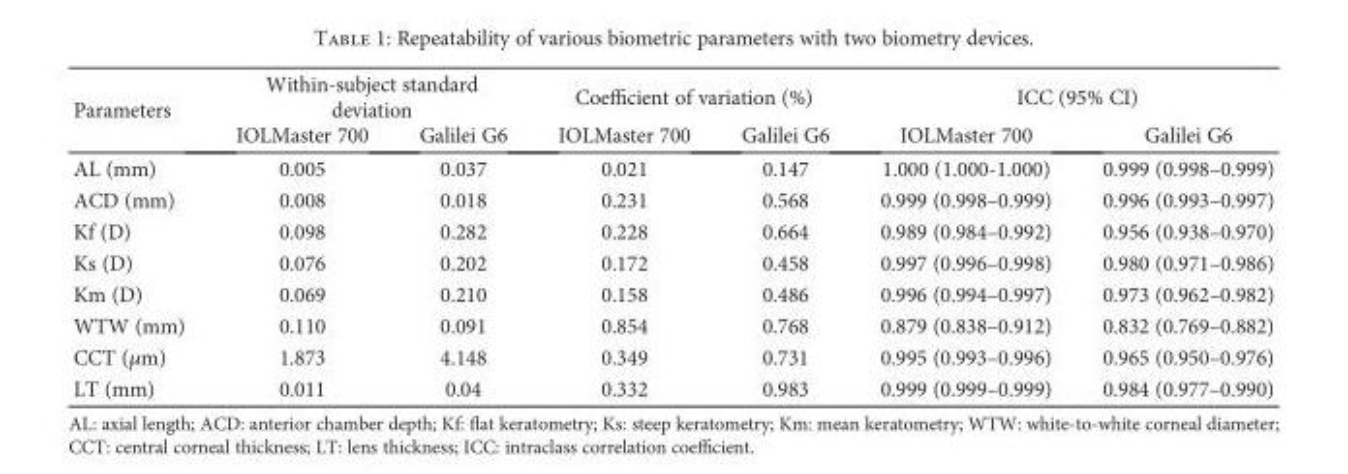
<table><thead><tr><td rowspan="2">Parameters</td><td colspan="2">Within-subject standard deviation</td><td colspan="2">Coefficient of variation (%)</td><td colspan="2">ICC (95% CI)</td></tr><tr><td>IOLMaster 700</td><td>Galilei G6</td><td>IOLMaster 700</td><td>Galilei G6</td><td>IOLMaster 700</td><td>Galilei G6</td></tr></thead><tbody><tr><td>AL (mm)</td><td>0.005</td><td>0.037</td><td>0.021</td><td>0.147</td><td>1.000 (1.000-1.000)</td><td>0.999 (0.998–0.999)</td></tr><tr><td>ACD (mm)</td><td>0.008</td><td>0.018</td><td>0.231</td><td>0.568</td><td>0.999 (0.998–0.999)</td><td>0.996 (0.993–0.997)</td></tr><tr><td>Kf (D)</td><td>0.098</td><td>0.282</td><td>0.228</td><td>0.664</td><td>0.989 (0.984–0.992)</td><td>0.956 (0.938–0.970)</td></tr><tr><td>Ks (D)</td><td>0.076</td><td>0.202</td><td>0.172</td><td>0.458</td><td>0.997 (0.996–0.998)</td><td>0.980 (0.971–0.986)</td></tr><tr><td>Km (D)</td><td>0.069</td><td>0.210</td><td>0.158</td><td>0.486</td><td>0.996 (0.994–0.997)</td><td>0.973 (0.962–0.982)</td></tr><tr><td>WTW (mm)</td><td>0.110</td><td>0.091</td><td>0.854</td><td>0.768</td><td>0.879 (0.838–0.912)</td><td>0.832 (0.769–0.882)</td></tr><tr><td>CCT (μm)</td><td>1.873</td><td>4.148</td><td>0.349</td><td>0.731</td><td>0.995 (0.993–0.996)</td><td>0.965 (0.950–0.976)</td></tr><tr><td>LT (mm)</td><td>0.011</td><td>0.04</td><td>0.332</td><td>0.983</td><td>0.999 (0.999–0.999)</td><td>0.984 (0.977–0.990)</td></tr></tbody></table>